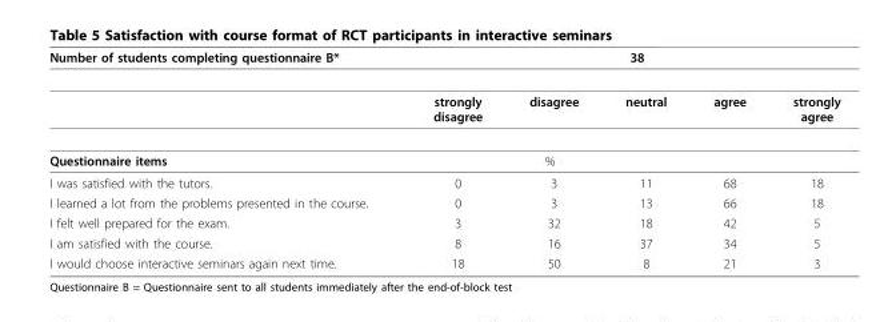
<table><thead><tr><td rowspan="2">Number of students completing questionnaire B*</td><td colspan="5">38</td></tr><tr><td>strongly disagree</td><td>disagree</td><td>neutral</td><td>agree</td><td>strongly agree</td></tr></thead><tbody><tr><td>Questionnaire items</td><td colspan="3">%</td><td></td><td></td></tr><tr><td>I was satisfied with the tutors.</td><td>0</td><td>3</td><td>11</td><td>68</td><td>18</td></tr><tr><td>I learned a lot from the problems presented in the course.</td><td>0</td><td>3</td><td>13</td><td>66</td><td>18</td></tr><tr><td>I felt well prepared for the exam.</td><td>3</td><td>32</td><td>18</td><td>42</td><td>5</td></tr><tr><td>I am satisfied with the course.</td><td>8</td><td>16</td><td>37</td><td>34</td><td>5</td></tr><tr><td>I would choose interactive seminars again next time.</td><td>18</td><td>50</td><td>8</td><td>21</td><td>3</td></tr></tbody></table>